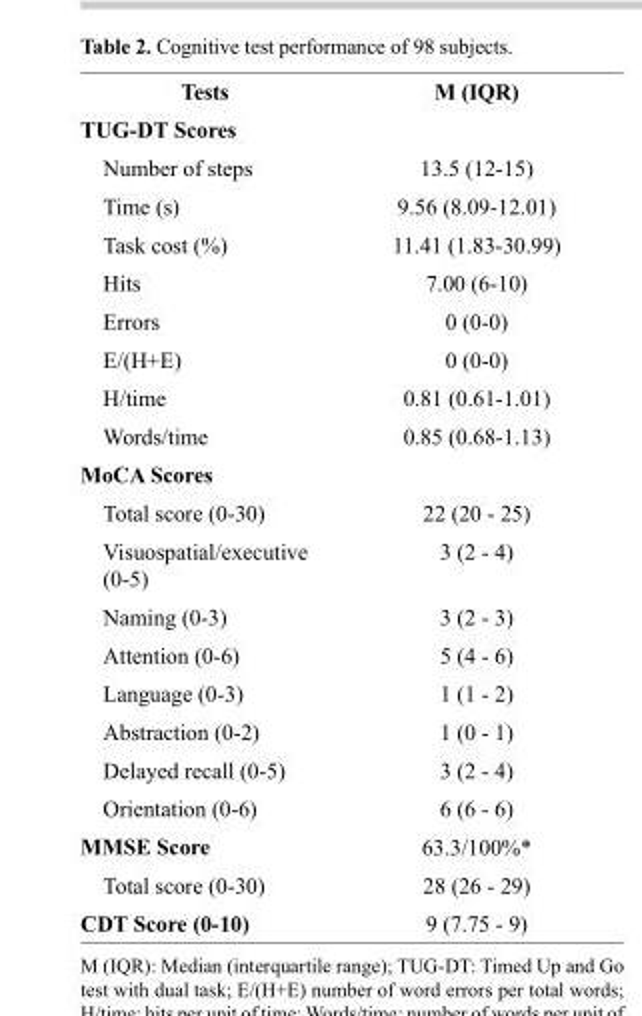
<table><thead><tr><td>Tests</td><td>M (IQR)</td></tr></thead><tbody><tr><td colspan="2">TUG-DT Scores</td></tr><tr><td>Number of steps</td><td>13.5 (12-15)</td></tr><tr><td>Time (s)</td><td>9.56 (8.09-12.01)</td></tr><tr><td>Task cost (%)</td><td>11.41 (1.83-30.99)</td></tr><tr><td>Hits</td><td>7.00 (6-10)</td></tr><tr><td>Errors</td><td>0 (0-0)</td></tr><tr><td>E/(H+E)</td><td>0 (0-0)</td></tr><tr><td>H/time</td><td>0.81 (0.61-1.01)</td></tr><tr><td>Words/time</td><td>0.85 (0.68-1.13)</td></tr><tr><td colspan="2">MoCA Scores</td></tr><tr><td>Total score (0-30)</td><td>22 (20 - 25)</td></tr><tr><td>Visuospatial/executive (0-5)</td><td>3 (2 - 4)</td></tr><tr><td>Naming (0-3)</td><td>3 (2 - 3)</td></tr><tr><td>Attention (0-6)</td><td>5 (4 - 6)</td></tr><tr><td>Language (0-3)</td><td>1 (1 - 2)</td></tr><tr><td>Abstraction (0-2)</td><td>1 (0 - 1)</td></tr><tr><td>Delayed recall (0-5)</td><td>3 (2 - 4)</td></tr><tr><td>Orientation (0-6)</td><td>6 (6 - 6)</td></tr><tr><td>MMSE Score</td><td>63.3/100%*</td></tr><tr><td>Total score (0-30)</td><td>28 (26 - 29)</td></tr><tr><td>CDT Score (0-10)</td><td>9 (7.75 - 9)</td></tr></tbody></table>